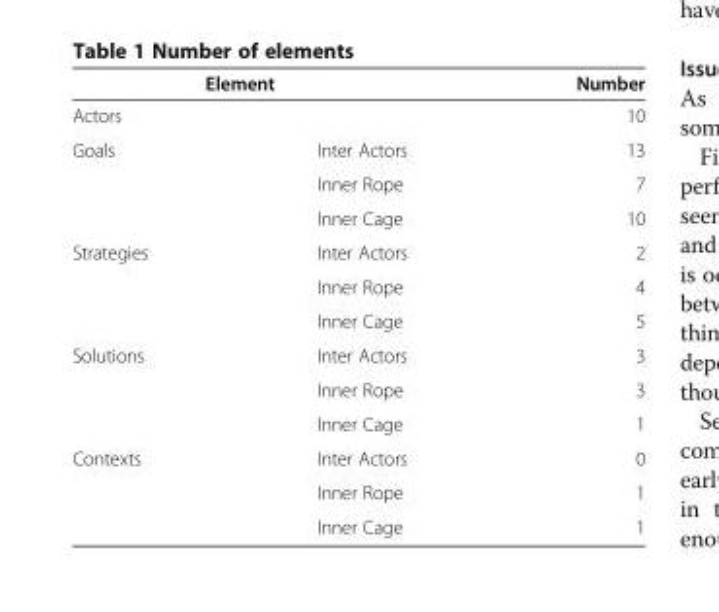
<table><thead><tr><td></td><td>Element</td><td>Number</td></tr></thead><tbody><tr><td colspan="2">Actors</td><td>10</td></tr><tr><td rowspan="3">Goals</td><td>Inter Actors</td><td>13</td></tr><tr><td>Inner Rope</td><td>7</td></tr><tr><td>Inner Cage</td><td>10</td></tr><tr><td rowspan="3">Strategies</td><td>Inter Actors</td><td>2</td></tr><tr><td>Inner Rope</td><td>4</td></tr><tr><td>Inner Cage</td><td>5</td></tr><tr><td rowspan="3">Solutions</td><td>Inter Actors</td><td>3</td></tr><tr><td>Inner Rope</td><td>3</td></tr><tr><td>Inner Cage</td><td>1</td></tr><tr><td rowspan="3">Contexts</td><td>Inter Actors</td><td>0</td></tr><tr><td>Inner Rope</td><td>1</td></tr><tr><td>Inner Cage</td><td>1</td></tr></tbody></table>